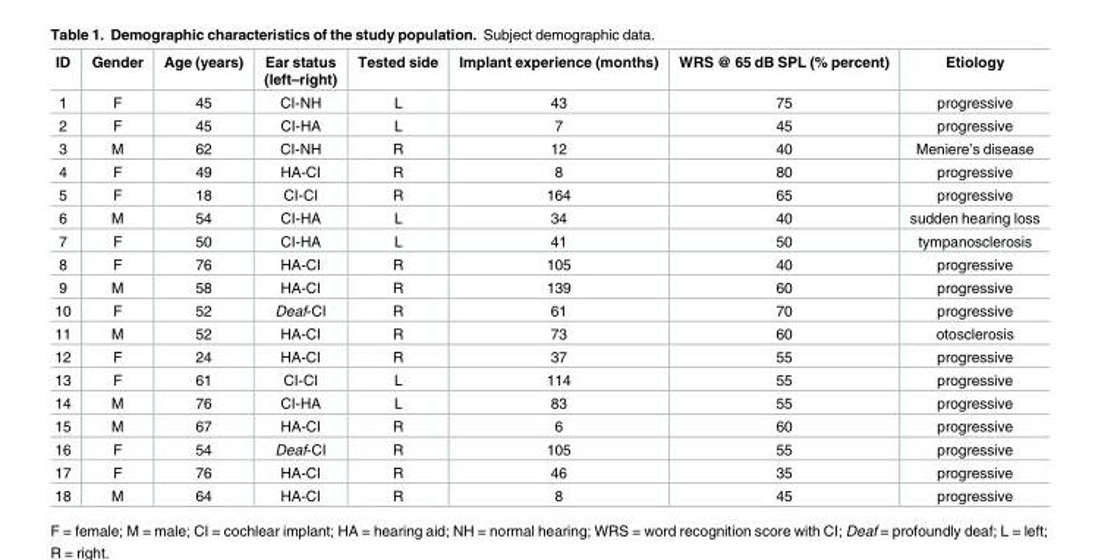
<table><thead><tr><td>ID</td><td>Gender</td><td>Age (years)</td><td>Ear status (left–right)</td><td>Tested side</td><td>Implant experience (months)</td><td>WRS @ 65 dB SPL (% percent)</td><td>Etiology</td></tr></thead><tbody><tr><td>1</td><td>F</td><td>45</td><td>CI-NH</td><td>L</td><td>43</td><td>75</td><td>progressive</td></tr><tr><td>2</td><td>F</td><td>45</td><td>CI-HA</td><td>L</td><td>7</td><td>45</td><td>progressive</td></tr><tr><td>3</td><td>M</td><td>62</td><td>CI-NH</td><td>R</td><td>12</td><td>40</td><td>Meniere’s disease</td></tr><tr><td>4</td><td>F</td><td>49</td><td>HA-CI</td><td>R</td><td>8</td><td>80</td><td>progressive</td></tr><tr><td>5</td><td>F</td><td>18</td><td>CI-CI</td><td>R</td><td>164</td><td>65</td><td>progressive</td></tr><tr><td>6</td><td>M</td><td>54</td><td>CI-HA</td><td>L</td><td>34</td><td>40</td><td>sudden hearing loss</td></tr><tr><td>7</td><td>F</td><td>50</td><td>CI-HA</td><td>L</td><td>41</td><td>50</td><td>tympanosclerosis</td></tr><tr><td>8</td><td>F</td><td>76</td><td>HA-CI</td><td>R</td><td>105</td><td>40</td><td>progressive</td></tr><tr><td>9</td><td>M</td><td>58</td><td>HA-CI</td><td>R</td><td>139</td><td>60</td><td>progressive</td></tr><tr><td>10</td><td>F</td><td>52</td><td>Deaf-CI</td><td>R</td><td>61</td><td>70</td><td>progressive</td></tr><tr><td>11</td><td>M</td><td>52</td><td>HA-CI</td><td>R</td><td>73</td><td>60</td><td>otosclerosis</td></tr><tr><td>12</td><td>F</td><td>24</td><td>HA-CI</td><td>R</td><td>37</td><td>55</td><td>progressive</td></tr><tr><td>13</td><td>F</td><td>61</td><td>CI-CI</td><td>L</td><td>114</td><td>55</td><td>progressive</td></tr><tr><td>14</td><td>M</td><td>76</td><td>CI-HA</td><td>L</td><td>83</td><td>55</td><td>progressive</td></tr><tr><td>15</td><td>M</td><td>67</td><td>HA-CI</td><td>R</td><td>6</td><td>60</td><td>progressive</td></tr><tr><td>16</td><td>F</td><td>54</td><td>Deaf-CI</td><td>R</td><td>105</td><td>55</td><td>progressive</td></tr><tr><td>17</td><td>F</td><td>76</td><td>HA-CI</td><td>R</td><td>46</td><td>35</td><td>progressive</td></tr><tr><td>18</td><td>M</td><td>64</td><td>HA-CI</td><td>R</td><td>8</td><td>45</td><td>progressive</td></tr></tbody></table>